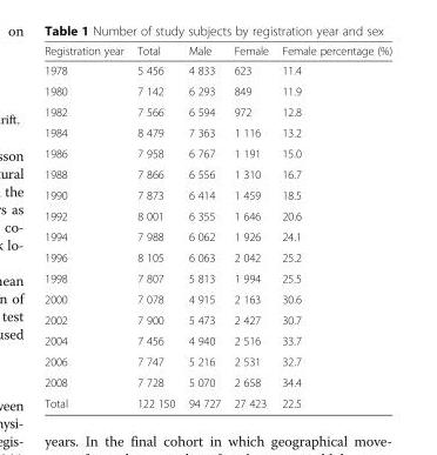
<table><thead><tr><td>Registration year</td><td>Total</td><td>Male</td><td>Female</td><td>Female percentage (%)</td></tr></thead><tbody><tr><td>1978</td><td>5 456</td><td>4 833</td><td>623</td><td>11.4</td></tr><tr><td>1980</td><td>7 142</td><td>6 293</td><td>849</td><td>11.9</td></tr><tr><td>1982</td><td>7 566</td><td>6 594</td><td>972</td><td>12.8</td></tr><tr><td>1984</td><td>8 479</td><td>7 363</td><td>1 116</td><td>13.2</td></tr><tr><td>1986</td><td>7 958</td><td>6 767</td><td>1 191</td><td>15.0</td></tr><tr><td>1988</td><td>7 866</td><td>6 556</td><td>1 310</td><td>16.7</td></tr><tr><td>1990</td><td>7 873</td><td>6 414</td><td>1 459</td><td>18.5</td></tr><tr><td>1992</td><td>8 001</td><td>6 355</td><td>1 646</td><td>20.6</td></tr><tr><td>1994</td><td>7 988</td><td>6 062</td><td>1 926</td><td>24.1</td></tr><tr><td>1996</td><td>8 105</td><td>6 063</td><td>2 042</td><td>25.2</td></tr><tr><td>1998</td><td>7 807</td><td>5 813</td><td>1 994</td><td>25.5</td></tr><tr><td>2000</td><td>7 078</td><td>4 915</td><td>2 163</td><td>30.6</td></tr><tr><td>2002</td><td>7 900</td><td>5 473</td><td>2 427</td><td>30.7</td></tr><tr><td>2004</td><td>7 456</td><td>4 940</td><td>2 516</td><td>33.7</td></tr><tr><td>2006</td><td>7 747</td><td>5 216</td><td>2 531</td><td>32.7</td></tr><tr><td>2008</td><td>7 728</td><td>5 070</td><td>2 658</td><td>34.4</td></tr><tr><td>Total</td><td>122 150</td><td>94 727</td><td>27 423</td><td>22.5</td></tr></tbody></table>